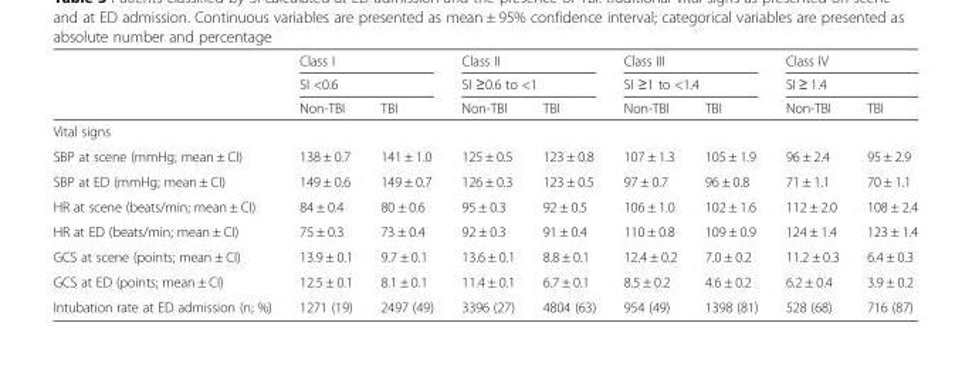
<table><thead><tr><td rowspan="3"></td><td rowspan="2" colspan="2">Class I SI &lt;0.6</td><td rowspan="2" colspan="2">Class II SI ≥0.6 to &lt;1</td><td rowspan="2" colspan="2">Class III SI ≥1 to &lt;1.4</td><td rowspan="2" colspan="2">Class IV SI ≥ 1.4</td></tr><tr></tr><tr><td>Non-TBI</td><td>TBI</td><td>Non-TBI</td><td>TBI</td><td>Non-TBI</td><td>TBI</td><td>Non-TBI</td><td>TBI</td></tr></thead><tbody><tr><td colspan="9">Vital signs</td></tr><tr><td>SBP at scene (mmHg; mean ± CI)</td><td>138 ± 0.7</td><td>141 ± 1.0</td><td>125 ± 0.5</td><td>123 ± 0.8</td><td>107 ± 1.3</td><td>105 ± 1.9</td><td>96 ± 2.4</td><td>95 ± 2.9</td></tr><tr><td>SBP at ED (mmHg; mean ± CI)</td><td>149 ± 0.6</td><td>149 ± 0.7</td><td>126 ± 0.3</td><td>123 ± 0.5</td><td>97 ± 0.7</td><td>96 ± 0.8</td><td>71 ± 1.1</td><td>70 ± 1.1</td></tr><tr><td>HR at scene (beats/min; mean ± CI)</td><td>84 ± 0.4</td><td>80 ± 0.6</td><td>95 ± 0.3</td><td>92 ± 0.5</td><td>106 ± 1.0</td><td>102 ± 1.6</td><td>112 ± 2.0</td><td>108 ± 2.4</td></tr><tr><td>HR at ED (beats/min; mean ± CI)</td><td>75 ± 0.3</td><td>73 ± 0.4</td><td>92 ± 0.3</td><td>91 ± 0.4</td><td>110 ± 0.8</td><td>109 ± 0.9</td><td>124 ± 1.4</td><td>123 ± 1.4</td></tr><tr><td>GCS at scene (points; mean ± CI)</td><td>13.9 ± 0.1</td><td>9.7 ± 0.1</td><td>13.6 ± 0.1</td><td>8.8 ± 0.1</td><td>12.4 ± 0.2</td><td>7.0 ± 0.2</td><td>11.2 ± 0.3</td><td>6.4 ± 0.3</td></tr><tr><td>GCS at ED (points; mean ± CI)</td><td>12.5 ± 0.1</td><td>8.1 ± 0.1</td><td>11.4 ± 0.1</td><td>6.7 ± 0.1</td><td>8.5 ± 0.2</td><td>4.6 ± 0.2</td><td>6.2 ± 0.4</td><td>3.9 ± 0.2</td></tr><tr><td>Intubation rate at ED admission (n; %)</td><td>1271 (19)</td><td>2497 (49)</td><td>3396 (27)</td><td>4804 (63)</td><td>954 (49)</td><td>1398 (81)</td><td>528 (68)</td><td>716 (87)</td></tr></tbody></table>